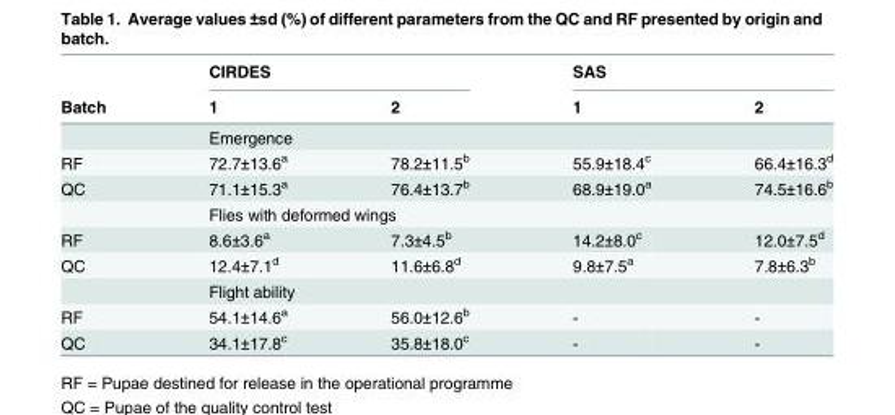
<table><thead><tr><td rowspan="2">Batch</td><td colspan="2">CIRDES</td><td colspan="2">SAS</td></tr><tr><td>1</td><td>2</td><td>1</td><td>2</td></tr></thead><tbody><tr><td></td><td colspan="4">Emergence</td></tr><tr><td>RF</td><td>72.7±13.6<sup>a</sup></td><td>78.2±11.5<sup>b</sup></td><td>55.9±18.4<sup>c</sup></td><td>66.4±16.3<sup>d</sup></td></tr><tr><td rowspan="2">QC</td><td>71.1±15.3<sup>a</sup></td><td>76.4±13.7<sup>b</sup></td><td>68.9±19.0<sup>a</sup></td><td>74.5±16.6<sup>b</sup></td></tr><tr><td colspan="4">Flies with deformed wings</td></tr><tr><td>RF</td><td>8.6±3.6<sup>a</sup></td><td>7.3±4.5<sup>b</sup></td><td>14.2±8.0<sup>c</sup></td><td>12.0±7.5<sup>d</sup></td></tr><tr><td rowspan="2">QC</td><td>12.4±7.1<sup>d</sup></td><td>11.6±6.8<sup>d</sup></td><td>9.8±7.5<sup>a</sup></td><td>7.8±6.3<sup>b</sup></td></tr><tr><td colspan="4">Flight ability</td></tr><tr><td>RF</td><td>54.1±14.6<sup>a</sup></td><td>56.0±12.6<sup>b</sup></td><td>-</td><td>-</td></tr><tr><td>QC</td><td>34.1±17.8<sup>c</sup></td><td>35.8±18.0<sup>c</sup></td><td>-</td><td>-</td></tr></tbody></table>